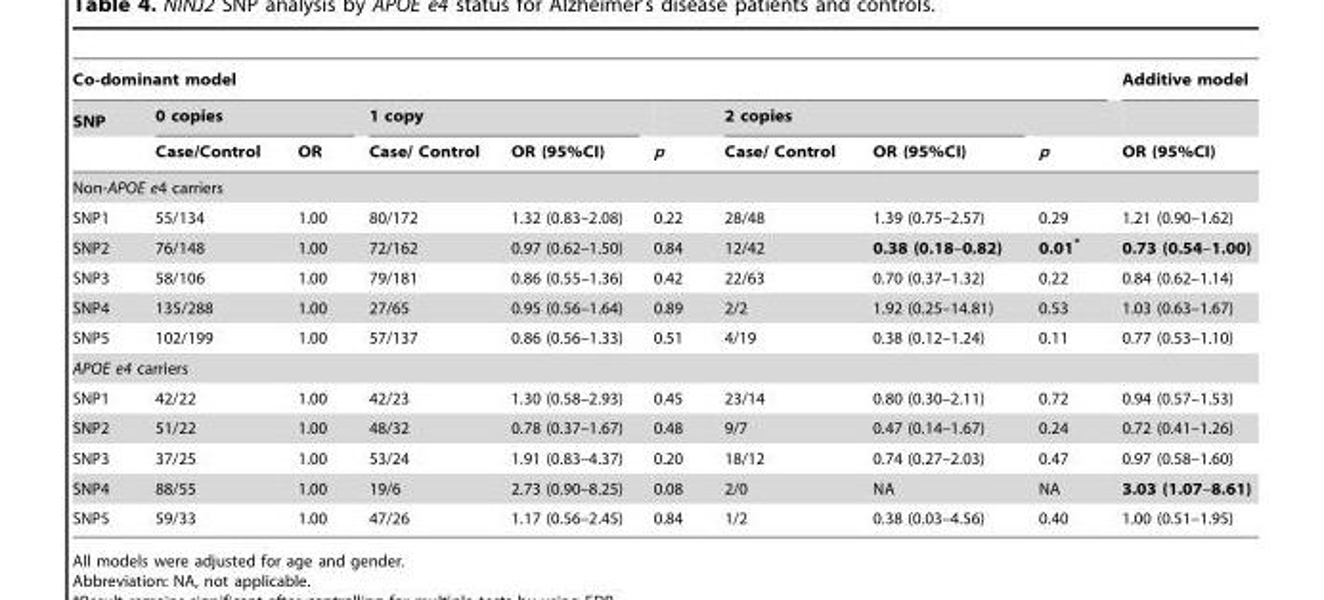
<table><thead><tr><td colspan="9">Co-dominant model</td><td rowspan="3">Additive model OR (95%CI)</td></tr><tr><td rowspan="2">SNP</td><td colspan="2">0 copies</td><td colspan="2">1 copy</td><td rowspan="2">p</td><td colspan="2">2 copies</td><td rowspan="2">p</td></tr><tr><td>Case/Control</td><td>OR</td><td>Case/ Control</td><td>OR (95%CI)</td><td>Case/ Control</td><td>OR (95%CI)</td></tr></thead><tbody><tr><td colspan="10">Non-APOE e4 carriers</td></tr><tr><td>SNP1</td><td>55/134</td><td>1.00</td><td>80/172</td><td>1.32 (0.83–2.08)</td><td>0.22</td><td>28/48</td><td>1.39 (0.75–2.57)</td><td>0.29</td><td>1.21 (0.90–1.62)</td></tr><tr><td>SNP2</td><td>76/148</td><td>1.00</td><td>72/162</td><td>0.97 (0.62–1.50)</td><td>0.84</td><td>12/42</td><td>0.38 (0.18–0.82)</td><td>0.01*</td><td>0.73 (0.54–1.00)</td></tr><tr><td>SNP3</td><td>58/106</td><td>1.00</td><td>79/181</td><td>0.86 (0.55–1.36)</td><td>0.42</td><td>22/63</td><td>0.70 (0.37–1.32)</td><td>0.22</td><td>0.84 (0.62–1.14)</td></tr><tr><td>SNP4</td><td>135/288</td><td>1.00</td><td>27/65</td><td>0.95 (0.56–1.64)</td><td>0.89</td><td>2/2</td><td>1.92 (0.25–14.81)</td><td>0.53</td><td>1.03 (0.63–1.67)</td></tr><tr><td>SNP5</td><td>102/199</td><td>1.00</td><td>57/137</td><td>0.86 (0.56–1.33)</td><td>0.51</td><td>4/19</td><td>0.38 (0.12–1.24)</td><td>0.11</td><td>0.77 (0.53–1.10)</td></tr><tr><td colspan="10">APOE e4 carriers</td></tr><tr><td>SNP1</td><td>42/22</td><td>1.00</td><td>42/23</td><td>1.30 (0.58–2.93)</td><td>0.45</td><td>23/14</td><td>0.80 (0.30–2.11)</td><td>0.72</td><td>0.94 (0.57–1.53)</td></tr><tr><td>SNP2</td><td>51/22</td><td>1.00</td><td>48/32</td><td>0.78 (0.37–1.67)</td><td>0.48</td><td>9/7</td><td>0.47 (0.14–1.67)</td><td>0.24</td><td>0.72 (0.41–1.26)</td></tr><tr><td>SNP3</td><td>37/25</td><td>1.00</td><td>53/24</td><td>1.91 (0.83–4.37)</td><td>0.20</td><td>18/12</td><td>0.74 (0.27–2.03)</td><td>0.47</td><td>0.97 (0.58–1.60)</td></tr><tr><td>SNP4</td><td>88/55</td><td>1.00</td><td>19/6</td><td>2.73 (0.90–8.25)</td><td>0.08</td><td>2/0</td><td>NA</td><td>NA</td><td>3.03 (1.07–8.61)</td></tr><tr><td>SNP5</td><td>59/33</td><td>1.00</td><td>47/26</td><td>1.17 (0.56–2.45)</td><td>0.84</td><td>1/2</td><td>0.38 (0.03–4.56)</td><td>0.40</td><td>1.00 (0.51–1.95)</td></tr></tbody></table>